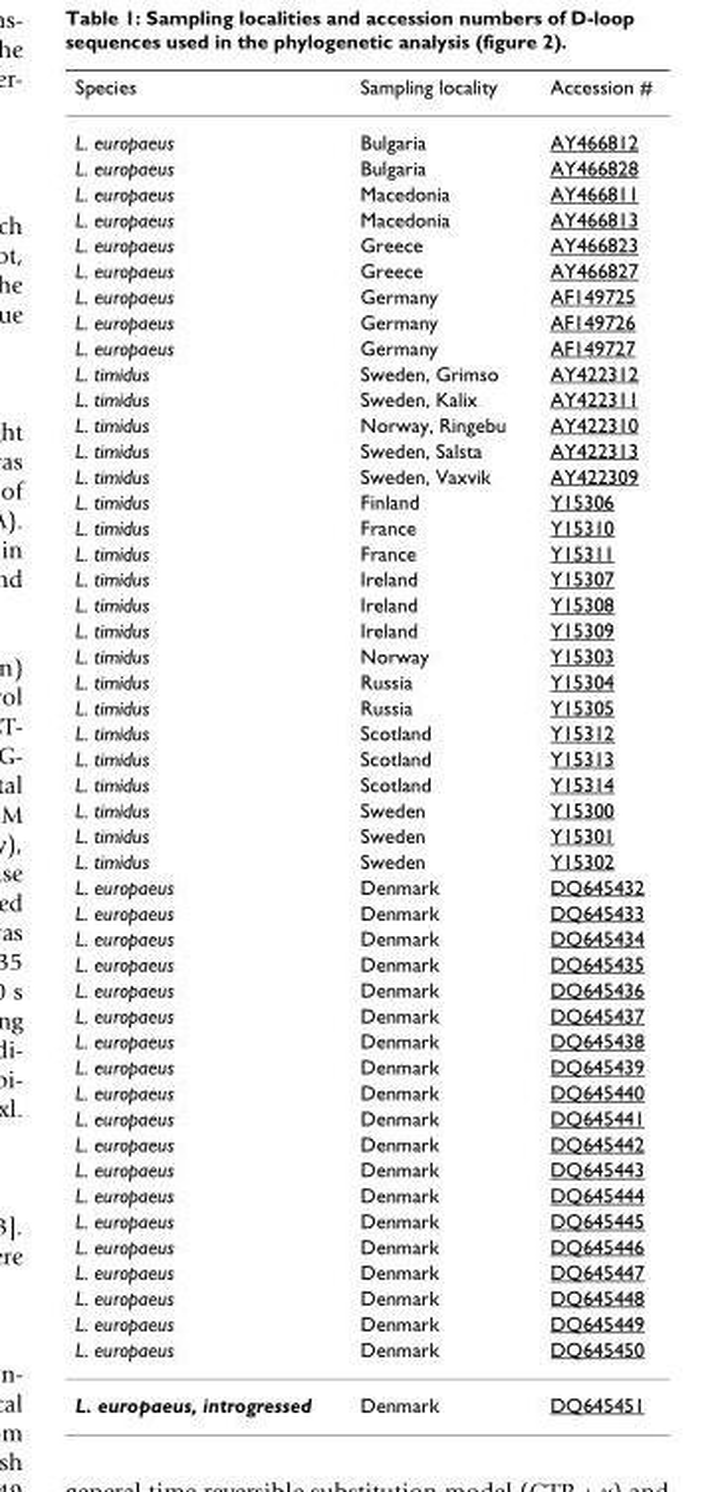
<table><thead><tr><td>Species</td><td>Sampling locality</td><td>Accession #</td></tr></thead><tbody><tr><td>L. europaeus</td><td>Bulgaria</td><td>AY466812</td></tr><tr><td>L. europaeus</td><td>Bulgaria</td><td>AY466828</td></tr><tr><td>L. europaeus</td><td>Macedonia</td><td>AY466811</td></tr><tr><td>L. europaeus</td><td>Macedonia</td><td>AY466813</td></tr><tr><td>L. europaeus</td><td>Greece</td><td>AY466823</td></tr><tr><td>L. europaeus</td><td>Greece</td><td>AY466827</td></tr><tr><td>L. europaeus</td><td>Germany</td><td>AF149725</td></tr><tr><td>L. europaeus</td><td>Germany</td><td>AF149726</td></tr><tr><td>L. europaeus</td><td>Germany</td><td>AF149727</td></tr><tr><td>L. timidus</td><td>Sweden, Grimso</td><td>AY422312</td></tr><tr><td>L. timidus</td><td>Sweden, Kalix</td><td>AY422311</td></tr><tr><td>L. timidus</td><td>Norway, Ringebu</td><td>AY422310</td></tr><tr><td>L. timidus</td><td>Sweden, Salsta</td><td>AY422313</td></tr><tr><td>L. timidus</td><td>Sweden, Vaxvik</td><td>AY422309</td></tr><tr><td>L. timidus</td><td>Finland</td><td>Y15306</td></tr><tr><td>L. timidus</td><td>France</td><td>Y15310</td></tr><tr><td>L. timidus</td><td>France</td><td>Y15311</td></tr><tr><td>L. timidus</td><td>Ireland</td><td>Y15307</td></tr><tr><td>L. timidus</td><td>Ireland</td><td>Y15308</td></tr><tr><td>L. timidus</td><td>Ireland</td><td>Y15309</td></tr><tr><td>L. timidus</td><td>Norway</td><td>Y15303</td></tr><tr><td>L. timidus</td><td>Russia</td><td>Y15304</td></tr><tr><td>L. timidus</td><td>Russia</td><td>Y15305</td></tr><tr><td>L. timidus</td><td>Scotland</td><td>Y15312</td></tr><tr><td>L. timidus</td><td>Scotland</td><td>Y15313</td></tr><tr><td>L. timidus</td><td>Scotland</td><td>Y15314</td></tr><tr><td>L. timidus</td><td>Sweden</td><td>Y15300</td></tr><tr><td>L. timidus</td><td>Sweden</td><td>Y15301</td></tr><tr><td>L. timidus</td><td>Sweden</td><td>Y15302</td></tr><tr><td>L. europaeus</td><td>Denmark</td><td>DQ645432</td></tr><tr><td>L. europaeus</td><td>Denmark</td><td>DQ645433</td></tr><tr><td>L. europaeus</td><td>Denmark</td><td>DQ645434</td></tr><tr><td>L. europaeus</td><td>Denmark</td><td>DQ645435</td></tr><tr><td>L. europaeus</td><td>Denmark</td><td>DQ645436</td></tr><tr><td>L. europaeus</td><td>Denmark</td><td>DQ645437</td></tr><tr><td>L. europaeus</td><td>Denmark</td><td>DQ645438</td></tr><tr><td>L. europaeus</td><td>Denmark</td><td>DQ645439</td></tr><tr><td>L. europaeus</td><td>Denmark</td><td>DQ645440</td></tr><tr><td>L. europaeus</td><td>Denmark</td><td>DQ645441</td></tr><tr><td>L. europaeus</td><td>Denmark</td><td>DQ645442</td></tr><tr><td>L. europaeus</td><td>Denmark</td><td>DQ645443</td></tr><tr><td>L. europaeus</td><td>Denmark</td><td>DQ645444</td></tr><tr><td>L. europaeus</td><td>Denmark</td><td>DQ645445</td></tr><tr><td>L. europaeus</td><td>Denmark</td><td>DQ645446</td></tr><tr><td>L. europaeus</td><td>Denmark</td><td>DQ645447</td></tr><tr><td>L. europaeus</td><td>Denmark</td><td>DQ645448</td></tr><tr><td>L. europaeus</td><td>Denmark</td><td>DQ645449</td></tr><tr><td>L. europaeus</td><td>Denmark</td><td>DQ645450</td></tr><tr><td>L. europaeus, introgressed</td><td>Denmark</td><td>DQ645451</td></tr></tbody></table>